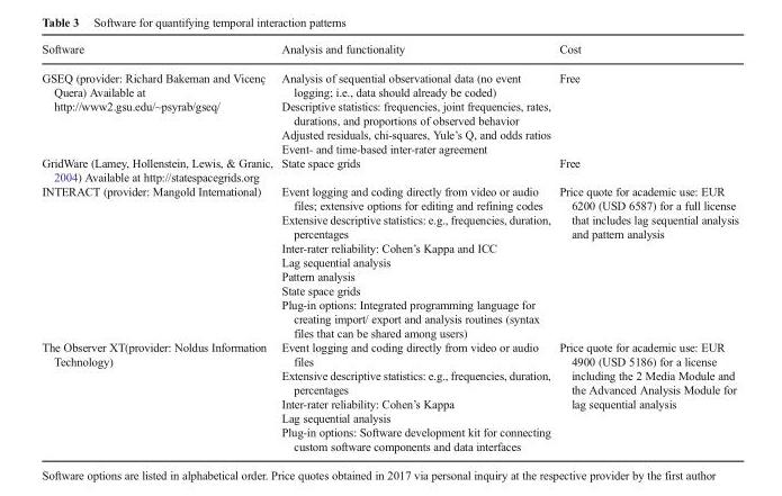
<table><thead><tr><td>Software</td><td>Analysis and functionality</td><td>Cost</td></tr></thead><tbody><tr><td>GSEQ (provider: Richard Bakeman and Vicenç Quera) Available at http://www2.gsu.edu/~psyrab/gseq/</td><td>Analysis of sequential observational data (no event logging; i.e., data should already be coded) Descriptive statistics: frequencies, joint frequencies, rates, durations, and proportions of observed behavior Adjusted residuals, chi-squares, Yule’s Q, and odds ratios Event- and time-based inter-rater agreement</td><td>Free</td></tr><tr><td>GridWare (Lamey, Hollenstein, Lewis, &amp; Granic, 2004) Available at http://statespacegrids.org</td><td>State space grids</td><td>Free</td></tr><tr><td>INTERACT (provider: Mangold International)</td><td>Event logging and coding directly from video or audio files; extensive options for editing and refining codes Extensive descriptive statistics: e.g., frequencies, duration, percentages Inter-rater reliability: Cohen’s Kappa and ICC Lag sequential analysis Pattern analysis State space grids Plug-in options: Integrated programming language for creating import/ export and analysis routines (syntax files that can be shared among users)</td><td>Price quote for academic use: EUR 6200 (USD 6587) for a full license that includes lag sequential analysis and pattern analysis</td></tr><tr><td>The Observer XT(provider: Noldus Information Technology)</td><td>Event logging and coding directly from video or audio files Extensive descriptive statistics: e.g., frequencies, duration, percentages Inter-rater reliability: Cohen’s Kappa Lag sequential analysis Plug-in options: Software development kit for connecting custom software components and data interfaces</td><td>Price quote for academic use: EUR 4900 (USD 5186) for a license including the 2 Media Module and the Advanced Analysis Module for lag sequential analysis</td></tr></tbody></table>